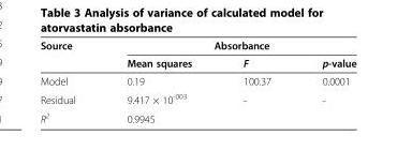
<table><thead><tr><td rowspan="2">Source</td><td rowspan="2">Mean squares</td><td rowspan="2">Absorbance F</td><td rowspan="2">p-value</td></tr><tr></tr></thead><tbody><tr><td>Model</td><td>0.19</td><td>100.37</td><td>0.0001</td></tr><tr><td>Residual</td><td>9.417 × 10<sup>-003</sup></td><td>-</td><td>-</td></tr><tr><td>R<sup>2</sup></td><td colspan="3">0.9945</td></tr></tbody></table>